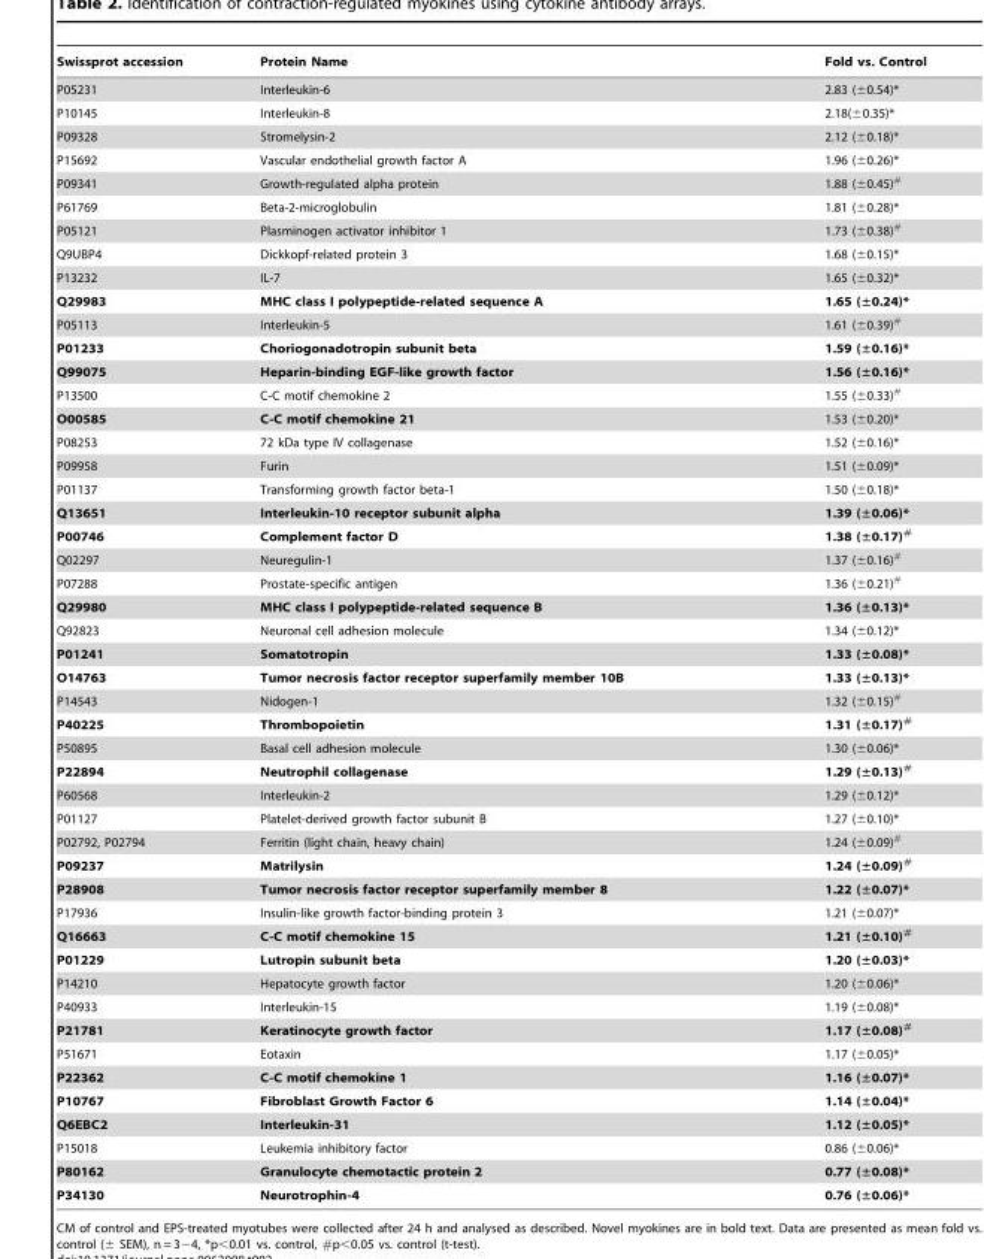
<table><thead><tr><td>Swissprot accession</td><td>Protein Name</td><td>Fold vs. Control</td></tr></thead><tbody><tr><td>P05231</td><td>Interleukin-6</td><td>2.83 (±0.54)*</td></tr><tr><td>P10145</td><td>Interleukin-8</td><td>2.18(±0.35)*</td></tr><tr><td>P09328</td><td>Stromelysin-2</td><td>2.12 (±0.18)*</td></tr><tr><td>P15692</td><td>Vascular endothelial growth factor A</td><td>1.96 (±0.26)*</td></tr><tr><td>P09341</td><td>Growth-regulated alpha protein</td><td>1.88 (±0.45)<sup>#</sup></td></tr><tr><td>P61769</td><td>Beta-2-microglobulin</td><td>1.81 (±0.28)*</td></tr><tr><td>P05121</td><td>Plasminogen activator inhibitor 1</td><td>1.73 (±0.38)<sup>#</sup></td></tr><tr><td>Q9UBP4</td><td>Dickkopf-related protein 3</td><td>1.68 (±0.15)*</td></tr><tr><td>P13232</td><td>IL-7</td><td>1.65 (±0.32)*</td></tr><tr><td>Q29983</td><td>MHC class I polypeptide-related sequence A</td><td>1.65 (±0.24)*</td></tr><tr><td>P05113</td><td>Interleukin-5</td><td>1.61 (±0.39)<sup>#</sup></td></tr><tr><td>P01233</td><td>Choriogonadotropin subunit beta</td><td>1.59 (±0.16)*</td></tr><tr><td>Q99075</td><td>Heparin-binding EGF-like growth factor</td><td>1.56 (±0.16)*</td></tr><tr><td>P13500</td><td>C-C motif chemokine 2</td><td>1.55 (±0.33)<sup>#</sup></td></tr><tr><td>O00585</td><td>C-C motif chemokine 21</td><td>1.53 (±0.20)*</td></tr><tr><td>P08253</td><td>72 kDa type IV collagenase</td><td>1.52 (±0.16)*</td></tr><tr><td>P09958</td><td>Furin</td><td>1.51 (±0.09)*</td></tr><tr><td>P01137</td><td>Transforming growth factor beta-1</td><td>1.50 (±0.18)*</td></tr><tr><td>Q13651</td><td>Interleukin-10 receptor subunit alpha</td><td>1.39 (±0.06)*</td></tr><tr><td>P00746</td><td>Complement factor D</td><td>1.38 (±0.17)<sup>#</sup></td></tr><tr><td>Q02297</td><td>Neuregulin-1</td><td>1.37 (±0.16)<sup>#</sup></td></tr><tr><td>P07288</td><td>Prostate-specific antigen</td><td>1.36 (±0.21)<sup>#</sup></td></tr><tr><td>Q29980</td><td>MHC class I polypeptide-related sequence B</td><td>1.36 (±0.13)*</td></tr><tr><td>Q92823</td><td>Neuronal cell adhesion molecule</td><td>1.34 (±0.12)*</td></tr><tr><td>P01241</td><td>Somatotropin</td><td>1.33 (±0.08)*</td></tr><tr><td>O14763</td><td>Tumor necrosis factor receptor superfamily member 10B</td><td>1.33 (±0.13)*</td></tr><tr><td>P14543</td><td>Nidogen-1</td><td>1.32 (±0.15)<sup>#</sup></td></tr><tr><td>P40225</td><td>Thrombopoietin</td><td>1.31 (±0.17)<sup>#</sup></td></tr><tr><td>P50895</td><td>Basal cell adhesion molecule</td><td>1.30 (±0.06)*</td></tr><tr><td>P22894</td><td>Neutrophil collagenase</td><td>1.29 (±0.13)<sup>#</sup></td></tr><tr><td>P60568</td><td>Interleukin-2</td><td>1.29 (±0.12)*</td></tr><tr><td>P01127</td><td>Platelet-derived growth factor subunit B</td><td>1.27 (±0.10)*</td></tr><tr><td>P02792, P02794</td><td>Ferritin (light chain, heavy chain)</td><td>1.24 (±0.09)<sup>#</sup></td></tr><tr><td>P09237</td><td>Matrilysin</td><td>1.24 (±0.09)<sup>#</sup></td></tr><tr><td>P28908</td><td>Tumor necrosis factor receptor superfamily member 8</td><td>1.22 (±0.07)*</td></tr><tr><td>P17936</td><td>Insulin-like growth factor-binding protein 3</td><td>1.21 (±0.07)*</td></tr><tr><td>Q16663</td><td>C-C motif chemokine 15</td><td>1.21 (±0.10)<sup>#</sup></td></tr><tr><td>P01229</td><td>Lutropin subunit beta</td><td>1.20 (±0.03)*</td></tr><tr><td>P14210</td><td>Hepatocyte growth factor</td><td>1.20 (±0.06)*</td></tr><tr><td>P40933</td><td>Interleukin-15</td><td>1.19 (±0.08)*</td></tr><tr><td>P21781</td><td>Keratinocyte growth factor</td><td>1.17 (±0.08)<sup>#</sup></td></tr><tr><td>P51671</td><td>Eotaxin</td><td>1.17 (±0.05)*</td></tr><tr><td>P22362</td><td>C-C motif chemokine 1</td><td>1.16 (±0.07)*</td></tr><tr><td>P10767</td><td>Fibroblast Growth Factor 6</td><td>1.14 (±0.04)*</td></tr><tr><td>Q6EBC2</td><td>Interleukin-31</td><td>1.12 (±0.05)*</td></tr><tr><td>P15018</td><td>Leukemia inhibitory factor</td><td>0.86 (±0.06)*</td></tr><tr><td>P80162</td><td>Granulocyte chemotactic protein 2</td><td>0.77 (±0.08)*</td></tr><tr><td>P34130</td><td>Neurotrophin-4</td><td>0.76 (±0.06)*</td></tr></tbody></table>